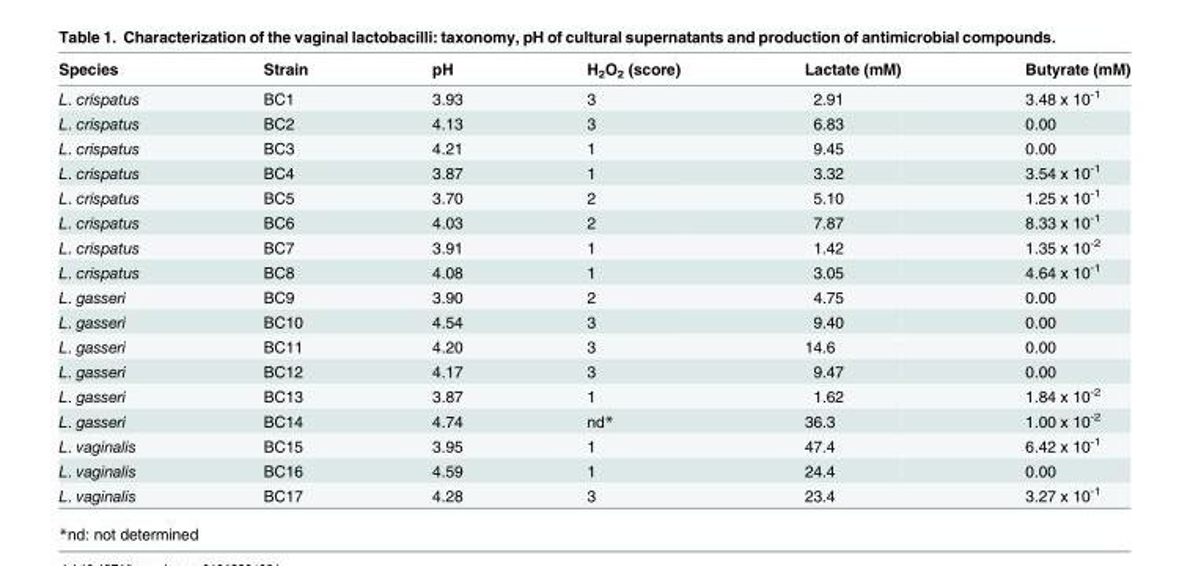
<table><thead><tr><td>Species</td><td>Strain</td><td>pH</td><td>H<sub>2</sub>O<sub>2</sub> (score)</td><td>Lactate (mM)</td><td>Butyrate (mM)</td></tr></thead><tbody><tr><td>L. crispatus</td><td>BC1</td><td>3.93</td><td>3</td><td>2.91</td><td>3.48 x 10<sup>-1</sup></td></tr><tr><td>L. crispatus</td><td>BC2</td><td>4.13</td><td>3</td><td>6.83</td><td>0.00</td></tr><tr><td>L. crispatus</td><td>BC3</td><td>4.21</td><td>1</td><td>9.45</td><td>0.00</td></tr><tr><td>L. crispatus</td><td>BC4</td><td>3.87</td><td>1</td><td>3.32</td><td>3.54 x 10<sup>-1</sup></td></tr><tr><td>L. crispatus</td><td>BC5</td><td>3.70</td><td>2</td><td>5.10</td><td>1.25 x 10<sup>-1</sup></td></tr><tr><td>L. crispatus</td><td>BC6</td><td>4.03</td><td>2</td><td>7.87</td><td>8.33 x 10<sup>-1</sup></td></tr><tr><td>L. crispatus</td><td>BC7</td><td>3.91</td><td>1</td><td>1.42</td><td>1.35 x 10<sup>-2</sup></td></tr><tr><td>L. crispatus</td><td>BC8</td><td>4.08</td><td>1</td><td>3.05</td><td>4.64 x 10<sup>-1</sup></td></tr><tr><td>L. gasseri</td><td>BC9</td><td>3.90</td><td>2</td><td>4.75</td><td>0.00</td></tr><tr><td>L. gasseri</td><td>BC10</td><td>4.54</td><td>3</td><td>9.40</td><td>0.00</td></tr><tr><td>L. gasseri</td><td>BC11</td><td>4.20</td><td>3</td><td>14.6</td><td>0.00</td></tr><tr><td>L. gasseri</td><td>BC12</td><td>4.17</td><td>3</td><td>9.47</td><td>0.00</td></tr><tr><td>L. gasseri</td><td>BC13</td><td>3.87</td><td>1</td><td>1.62</td><td>1.84 x 10<sup>-2</sup></td></tr><tr><td>L. gasseri</td><td>BC14</td><td>4.74</td><td>nd*</td><td>36.3</td><td>1.00 x 10<sup>-2</sup></td></tr><tr><td>L. vaginalis</td><td>BC15</td><td>3.95</td><td>1</td><td>47.4</td><td>6.42 x 10<sup>-1</sup></td></tr><tr><td>L. vaginalis</td><td>BC16</td><td>4.59</td><td>1</td><td>24.4</td><td>0.00</td></tr><tr><td>L. vaginalis</td><td>BC17</td><td>4.28</td><td>3</td><td>23.4</td><td>3.27 x 10<sup>-1</sup></td></tr></tbody></table>